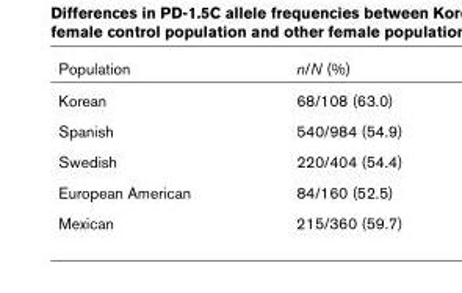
<table><thead><tr><td>Population</td><td>n/N (%)</td></tr></thead><tbody><tr><td>Korean</td><td>68/108 (63.0)</td></tr><tr><td>Spanish</td><td>540/984 (54.9)</td></tr><tr><td>Swedish</td><td>220/404 (54.4)</td></tr><tr><td>European American</td><td>84/160 (52.5)</td></tr><tr><td>Mexican</td><td>215/360 (59.7)</td></tr></tbody></table>